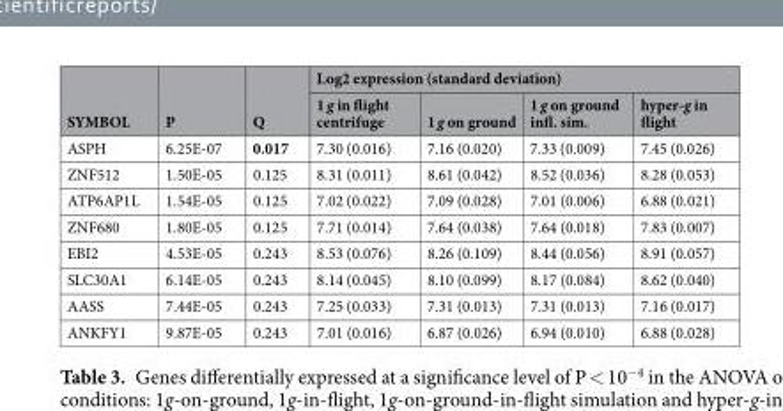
<table><thead><tr><td rowspan="2">SYMBOL</td><td rowspan="2">P</td><td rowspan="2">Q</td><td colspan="4">Log2 expression (standard deviation)</td></tr><tr><td>1 g in flight centrifuge</td><td>1 g on ground</td><td>1 g on ground infl. sim.</td><td>hyper-g in flight</td></tr></thead><tbody><tr><td>ASPH</td><td>6.25E-07</td><td>0.017</td><td>7.30 (0.016)</td><td>7.16 (0.020)</td><td>7.33 (0.009)</td><td>7.45 (0.026)</td></tr><tr><td>ZNF512</td><td>1.50E-05</td><td>0.125</td><td>8.31 (0.011)</td><td>8.61 (0.042)</td><td>8.52 (0.036)</td><td>8.28 (0.053)</td></tr><tr><td>ATP6AP1L</td><td>1.54E-05</td><td>0.125</td><td>7.02 (0.022)</td><td>7.09 (0.028)</td><td>7.01 (0.006)</td><td>6.88 (0.021)</td></tr><tr><td>ZNF680</td><td>1.80E-05</td><td>0.125</td><td>7.71 (0.014)</td><td>7.64 (0.038)</td><td>7.64 (0.018)</td><td>7.83 (0.007)</td></tr><tr><td>EBI2</td><td>4.53E-05</td><td>0.243</td><td>8.53 (0.076)</td><td>8.26 (0.109)</td><td>8.44 (0.056)</td><td>8.91 (0.057)</td></tr><tr><td>SLC30A1</td><td>6.14E-05</td><td>0.243</td><td>8.14 (0.045)</td><td>8.10 (0.099)</td><td>8.17 (0.084)</td><td>8.62 (0.040)</td></tr><tr><td>AASS</td><td>7.44E-05</td><td>0.243</td><td>7.25 (0.033)</td><td>7.31 (0.013)</td><td>7.31 (0.013)</td><td>7.16 (0.017)</td></tr><tr><td>ANKFY1</td><td>9.87E-05</td><td>0.243</td><td>7.01 (0.016)</td><td>6.87 (0.026)</td><td>6.94 (0.010)</td><td>6.88 (0.028)</td></tr></tbody></table>